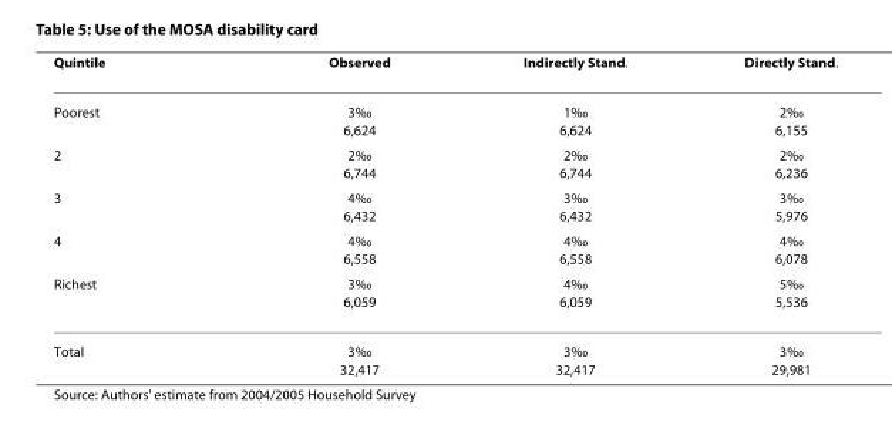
<table><thead><tr><td>Quintile</td><td>Observed</td><td>Indirectly Stand.</td><td>Directly Stand.</td></tr></thead><tbody><tr><td>Poorest</td><td>3‰ 6,624</td><td>1‰ 6,624</td><td>2‰ 6,155</td></tr><tr><td>2</td><td>2‰ 6,744</td><td>2‰ 6,744</td><td>2‰ 6,236</td></tr><tr><td>3</td><td>4‰ 6,432</td><td>3‰ 6,432</td><td>3‰ 5,976</td></tr><tr><td>4</td><td>4‰ 6,558</td><td>4‰ 6,558</td><td>4‰ 6,078</td></tr><tr><td>Richest</td><td>3‰ 6,059</td><td>4‰ 6,059</td><td>5‰ 5,536</td></tr><tr><td>Total</td><td>3‰ 32,417</td><td>3‰ 32,417</td><td>3‰ 29,981</td></tr></tbody></table>